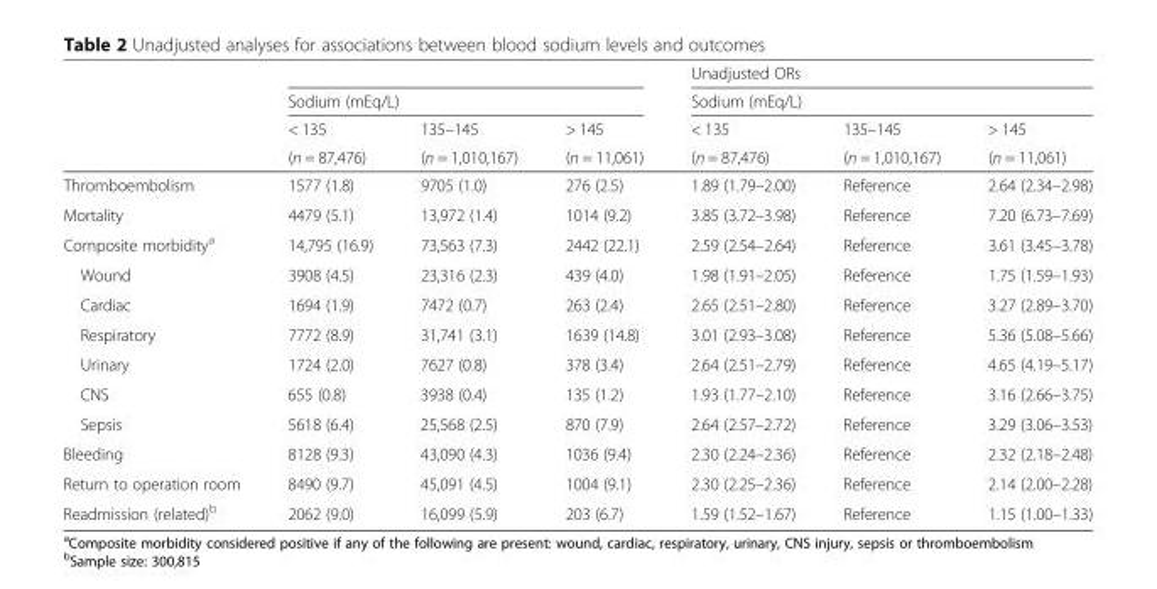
<table><thead><tr><td rowspan="4"></td><td></td><td></td><td></td><td rowspan="2" colspan="3">Unadjusted ORs Sodium (mEq/L)</td></tr><tr><td colspan="3">Sodium (mEq/L)</td></tr><tr><td rowspan="2">&lt; 135 (n = 87,476)</td><td rowspan="2">135–145 (n = 1,010,167)</td><td rowspan="2">&gt; 145 (n = 11,061)</td><td rowspan="2">&lt; 135 (n = 87,476)</td><td rowspan="2">135–145 (n = 1,010,167)</td><td rowspan="2">&gt; 145 (n = 11,061)</td></tr><tr></tr></thead><tbody><tr><td>Thromboembolism</td><td>1577 (1.8)</td><td>9705 (1.0)</td><td>276 (2.5)</td><td>1.89 (1.79–2.00)</td><td>Reference</td><td>2.64 (2.34–2.98)</td></tr><tr><td>Mortality</td><td>4479 (5.1)</td><td>13,972 (1.4)</td><td>1014 (9.2)</td><td>3.85 (3.72–3.98)</td><td>Reference</td><td>7.20 (6.73–7.69)</td></tr><tr><td>Composite morbidity<sup>a</sup></td><td>14,795 (16.9)</td><td>73,563 (7.3)</td><td>2442 (22.1)</td><td>2.59 (2.54–2.64)</td><td>Reference</td><td>3.61 (3.45–3.78)</td></tr><tr><td>Wound</td><td>3908 (4.5)</td><td>23,316 (2.3)</td><td>439 (4.0)</td><td>1.98 (1.91–2.05)</td><td>Reference</td><td>1.75 (1.59–1.93)</td></tr><tr><td>Cardiac</td><td>1694 (1.9)</td><td>7472 (0.7)</td><td>263 (2.4)</td><td>2.65 (2.51–2.80)</td><td>Reference</td><td>3.27 (2.89–3.70)</td></tr><tr><td>Respiratory</td><td>7772 (8.9)</td><td>31,741 (3.1)</td><td>1639 (14.8)</td><td>3.01 (2.93–3.08)</td><td>Reference</td><td>5.36 (5.08–5.66)</td></tr><tr><td>Urinary</td><td>1724 (2.0)</td><td>7627 (0.8)</td><td>378 (3.4)</td><td>2.64 (2.51–2.79)</td><td>Reference</td><td>4.65 (4.19–5.17)</td></tr><tr><td>CNS</td><td>655 (0.8)</td><td>3938 (0.4)</td><td>135 (1.2)</td><td>1.93 (1.77–2.10)</td><td>Reference</td><td>3.16 (2.66–3.75)</td></tr><tr><td>Sepsis</td><td>5618 (6.4)</td><td>25,568 (2.5)</td><td>870 (7.9)</td><td>2.64 (2.57–2.72)</td><td>Reference</td><td>3.29 (3.06–3.53)</td></tr><tr><td>Bleeding</td><td>8128 (9.3)</td><td>43,090 (4.3)</td><td>1036 (9.4)</td><td>2.30 (2.24–2.36)</td><td>Reference</td><td>2.32 (2.18–2.48)</td></tr><tr><td>Return to operation room</td><td>8490 (9.7)</td><td>45,091 (4.5)</td><td>1004 (9.1)</td><td>2.30 (2.25–2.36)</td><td>Reference</td><td>2.14 (2.00–2.28)</td></tr><tr><td>Readmission (related)<sup>b</sup></td><td>2062 (9.0)</td><td>16,099 (5.9)</td><td>203 (6.7)</td><td>1.59 (1.52–1.67)</td><td>Reference</td><td>1.15 (1.00–1.33)</td></tr></tbody></table>